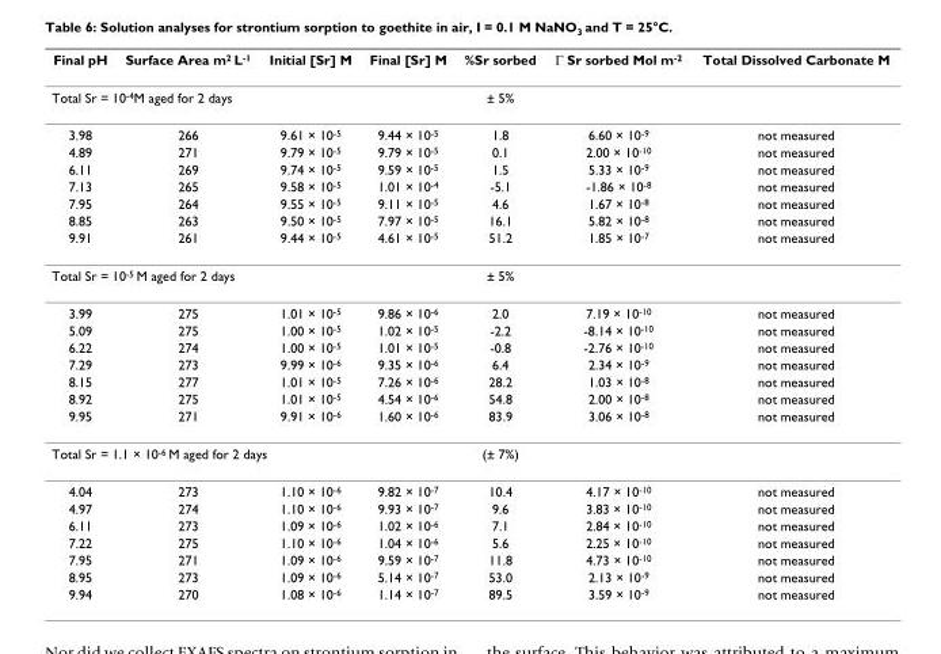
<table><thead><tr><td>Final pH</td><td>Surface Area m2 L-1</td><td>Initial [Sr] M</td><td>Final [Sr] M</td><td>%Sr sorbed</td><td>Γ Sr sorbed Mol m-2</td><td>Total Dissolved Carbonate M</td></tr></thead><tbody><tr><td colspan="3">Total Sr = 10<sup>-4</sup>M aged for 2 days</td><td></td><td>± 5%</td><td></td><td></td></tr><tr><td>3.98</td><td>266</td><td>9.61 × 10<sup>-5</sup></td><td>9.44 × 10<sup>-5</sup></td><td>1.8</td><td>6.60 × 10<sup>-9</sup></td><td>not measured</td></tr><tr><td>4.89</td><td>271</td><td>9.79 × 10<sup>-5</sup></td><td>9.79 × 10<sup>-5</sup></td><td>0.1</td><td>2.00 × 10<sup>-10</sup></td><td>not measured</td></tr><tr><td>6.11</td><td>269</td><td>9.74 × 10<sup>-5</sup></td><td>9.59 × 10<sup>-5</sup></td><td>1.5</td><td>5.33 × 10<sup>-9</sup></td><td>not measured</td></tr><tr><td>7.13</td><td>265</td><td>9.58 × 10<sup>-5</sup></td><td>1.01 × 10<sup>-4</sup></td><td>-5.1</td><td>-1.86 × 10<sup>-8</sup></td><td>not measured</td></tr><tr><td>7.95</td><td>264</td><td>9.55 × 10<sup>-5</sup></td><td>9.11 × 10<sup>-5</sup></td><td>4.6</td><td>1.67 × 10<sup>-8</sup></td><td>not measured</td></tr><tr><td>8.85</td><td>263</td><td>9.50 × 10<sup>-5</sup></td><td>7.97 × 10<sup>-5</sup></td><td>16.1</td><td>5.82 × 10<sup>-8</sup></td><td>not measured</td></tr><tr><td>9.91</td><td>261</td><td>9.44 × 10<sup>-5</sup></td><td>4.61 × 10<sup>-5</sup></td><td>51.2</td><td>1.85 × 10<sup>-7</sup></td><td>not measured</td></tr><tr><td colspan="3">Total Sr = 10<sup>-5</sup> M aged for 2 days</td><td></td><td>± 5%</td><td></td><td></td></tr><tr><td>3.99</td><td>275</td><td>1.01 × 10<sup>-5</sup></td><td>9.86 × 10<sup>-6</sup></td><td>2.0</td><td>7.19 × 10<sup>-10</sup></td><td>not measured</td></tr><tr><td>5.09</td><td>275</td><td>1.00 × 10<sup>-5</sup></td><td>1.02 × 10<sup>-5</sup></td><td>-2.2</td><td>-8.14 × 10<sup>-10</sup></td><td>not measured</td></tr><tr><td>6.22</td><td>274</td><td>1.00 × 10<sup>-5</sup></td><td>1.01 × 10<sup>-5</sup></td><td>-0.8</td><td>-2.76 × 10<sup>-10</sup></td><td>not measured</td></tr><tr><td>7.29</td><td>273</td><td>9.99 × 10<sup>-6</sup></td><td>9.35 × 10<sup>-6</sup></td><td>6.4</td><td>2.34 × 10<sup>-9</sup></td><td>not measured</td></tr><tr><td>8.15</td><td>277</td><td>1.01 × 10<sup>-5</sup></td><td>7.26 × 10<sup>-6</sup></td><td>28.2</td><td>1.03 × 10<sup>-8</sup></td><td>not measured</td></tr><tr><td>8.92</td><td>275</td><td>1.01 × 10<sup>-5</sup></td><td>4.54 × 10<sup>-6</sup></td><td>54.8</td><td>2.00 × 10<sup>-8</sup></td><td>not measured</td></tr><tr><td>9.95</td><td>271</td><td>9.91 × 10<sup>-6</sup></td><td>1.60 × 10<sup>-6</sup></td><td>83.9</td><td>3.06 × 10<sup>-8</sup></td><td>not measured</td></tr><tr><td colspan="3">Total Sr = 1.1 × 10<sup>-6</sup> M aged for 2 days</td><td></td><td>(± 7%)</td><td></td><td></td></tr><tr><td>4.04</td><td>273</td><td>1.10 × 10<sup>-6</sup></td><td>9.82 × 10<sup>-7</sup></td><td>10.4</td><td>4.17 × 10<sup>-10</sup></td><td>not measured</td></tr><tr><td>4.97</td><td>274</td><td>1.10 × 10<sup>-6</sup></td><td>9.93 × 10<sup>-7</sup></td><td>9.6</td><td>3.83 × 10<sup>-10</sup></td><td>not measured</td></tr><tr><td>6.11</td><td>273</td><td>1.09 × 10<sup>-6</sup></td><td>1.02 × 10<sup>-6</sup></td><td>7.1</td><td>2.84 × 10<sup>-10</sup></td><td>not measured</td></tr><tr><td>7.22</td><td>275</td><td>1.10 × 10<sup>-6</sup></td><td>1.04 × 10<sup>-6</sup></td><td>5.6</td><td>2.25 × 10<sup>-10</sup></td><td>not measured</td></tr><tr><td>7.95</td><td>271</td><td>1.09 × 10<sup>-6</sup></td><td>9.59 × 10<sup>-7</sup></td><td>11.8</td><td>4.73 × 10<sup>-10</sup></td><td>not measured</td></tr><tr><td>8.95</td><td>273</td><td>1.09 × 10<sup>-6</sup></td><td>5.14 × 10<sup>-7</sup></td><td>53.0</td><td>2.13 × 10<sup>-9</sup></td><td>not measured</td></tr><tr><td>9.94</td><td>270</td><td>1.08 × 10<sup>-6</sup></td><td>1.14 × 10<sup>-7</sup></td><td>89.5</td><td>3.59 × 10<sup>-9</sup></td><td>not measured</td></tr></tbody></table>